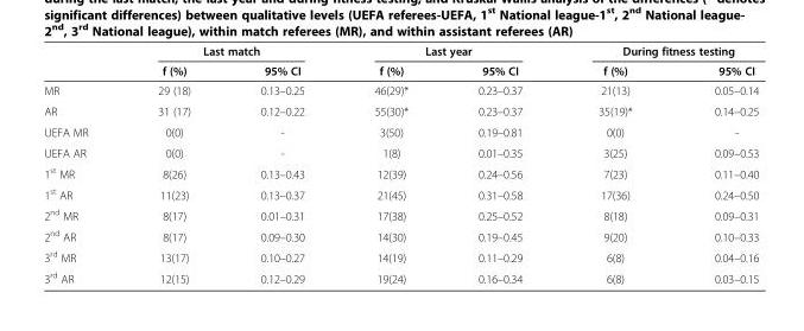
<table><thead><tr><td rowspan="2"></td><td colspan="2">Last match</td><td colspan="2">Last year</td><td colspan="2">During fitness testing</td></tr><tr><td>f (%)</td><td>95% CI</td><td>f (%)</td><td>95% CI</td><td>f (%)</td><td>95% CI</td></tr></thead><tbody><tr><td>MR</td><td>29 (18)</td><td>0.13–0.25</td><td>46(29)*</td><td>0.23–0.37</td><td>21(13)</td><td>0.05–0.14</td></tr><tr><td>AR</td><td>31 (17)</td><td>0.12–0.22</td><td>55(30)*</td><td>0.23–0.37</td><td>35(19)*</td><td>0.14–0.25</td></tr><tr><td>UEFA MR</td><td>0(0)</td><td>-</td><td>3(50)</td><td>0.19–0.81</td><td>0(0)</td><td>-</td></tr><tr><td>UEFA AR</td><td>0(0)</td><td>-</td><td>1(8)</td><td>0.01–0.35</td><td>3(25)</td><td>0.09–0.53</td></tr><tr><td>1<sup>st</sup> MR</td><td>8(26)</td><td>0.13–0.43</td><td>12(39)</td><td>0.24–0.56</td><td>7(23)</td><td>0.11–0.40</td></tr><tr><td>1<sup>st</sup> AR</td><td>11(23)</td><td>0.13–0.37</td><td>21(45)</td><td>0.31–0.58</td><td>17(36)</td><td>0.24–0.50</td></tr><tr><td>2<sup>nd</sup> MR</td><td>8(17)</td><td>0.01–0.31</td><td>17(38)</td><td>0.25–0.52</td><td>8(18)</td><td>0.09–0.31</td></tr><tr><td>2<sup>nd</sup> AR</td><td>8(17)</td><td>0.09–0.30</td><td>14(30)</td><td>0.19–0.45</td><td>9(20)</td><td>0.10–0.33</td></tr><tr><td>3<sup>rd</sup> MR</td><td>13(17)</td><td>0.10–0.27</td><td>14(19)</td><td>0.11–0.29</td><td>6(8)</td><td>0.04–0.16</td></tr><tr><td>3<sup>rd</sup> AR</td><td>12(15)</td><td>0.12–0.29</td><td>19(24)</td><td>0.16–0.34</td><td>6(8)</td><td>0.03–0.15</td></tr></tbody></table>